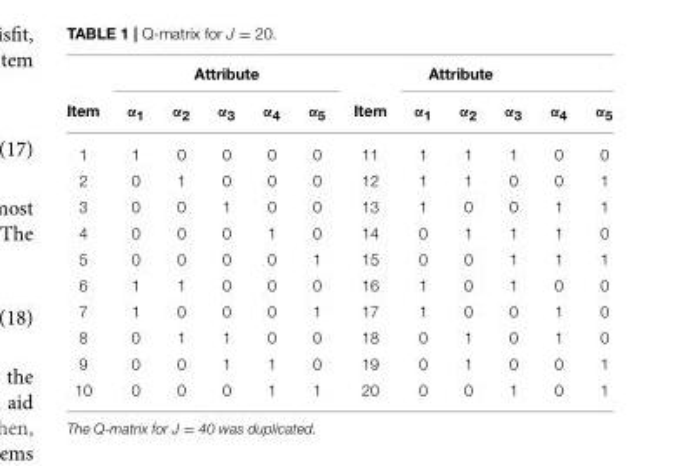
<table><thead><tr><td rowspan="2">Item</td><td colspan="5">Attribute</td><td rowspan="2">Item</td><td colspan="5">Attribute</td></tr><tr><td>α<sub>1</sub></td><td>α<sub>2</sub></td><td>α<sub>3</sub></td><td>α<sub>4</sub></td><td>α<sub>5</sub></td><td>α<sub>1</sub></td><td>α<sub>2</sub></td><td>α<sub>3</sub></td><td>α<sub>4</sub></td><td>α<sub>5</sub></td></tr></thead><tbody><tr><td>1</td><td>1</td><td>0</td><td>0</td><td>0</td><td>0</td><td>11</td><td>1</td><td>1</td><td>1</td><td>0</td><td>0</td></tr><tr><td>2</td><td>0</td><td>1</td><td>0</td><td>0</td><td>0</td><td>12</td><td>1</td><td>1</td><td>0</td><td>0</td><td>1</td></tr><tr><td>3</td><td>0</td><td>0</td><td>1</td><td>0</td><td>0</td><td>13</td><td>1</td><td>0</td><td>0</td><td>1</td><td>1</td></tr><tr><td>4</td><td>0</td><td>0</td><td>0</td><td>1</td><td>0</td><td>14</td><td>0</td><td>1</td><td>1</td><td>1</td><td>0</td></tr><tr><td>5</td><td>0</td><td>0</td><td>0</td><td>0</td><td>1</td><td>15</td><td>0</td><td>0</td><td>1</td><td>1</td><td>1</td></tr><tr><td>6</td><td>1</td><td>1</td><td>0</td><td>0</td><td>0</td><td>16</td><td>1</td><td>0</td><td>1</td><td>0</td><td>0</td></tr><tr><td>7</td><td>1</td><td>0</td><td>0</td><td>0</td><td>1</td><td>17</td><td>1</td><td>0</td><td>0</td><td>1</td><td>0</td></tr><tr><td>8</td><td>0</td><td>1</td><td>1</td><td>0</td><td>0</td><td>18</td><td>0</td><td>1</td><td>0</td><td>1</td><td>0</td></tr><tr><td>9</td><td>0</td><td>0</td><td>1</td><td>1</td><td>0</td><td>19</td><td>0</td><td>1</td><td>0</td><td>0</td><td>1</td></tr><tr><td>10</td><td>0</td><td>0</td><td>0</td><td>1</td><td>1</td><td>20</td><td>0</td><td>0</td><td>1</td><td>0</td><td>1</td></tr></tbody></table>